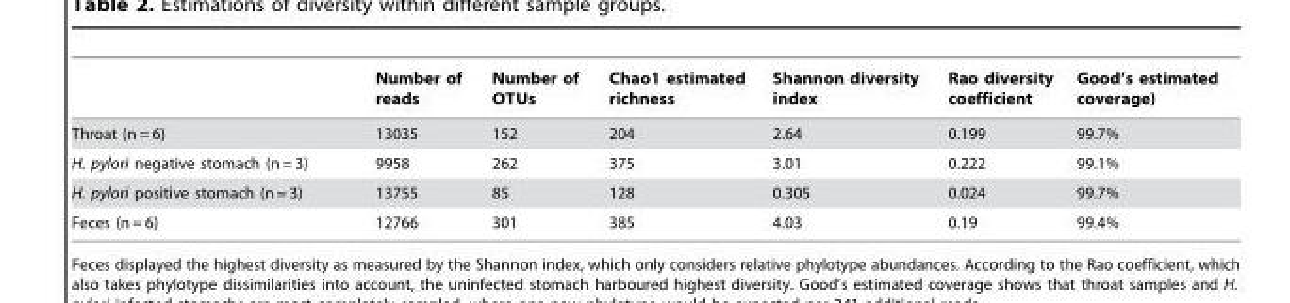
<table><thead><tr><td></td><td>Number of reads</td><td>Number of OTUs</td><td>Chao1 estimated richness</td><td>Shannon diversity index</td><td>Rao diversity coefficient</td><td>Good’s estimated coverage)</td></tr></thead><tbody><tr><td>Throat (n = 6)</td><td>13035</td><td>152</td><td>204</td><td>2.64</td><td>0.199</td><td>99.7%</td></tr><tr><td>H. pylori negative stomach (n = 3)</td><td>9958</td><td>262</td><td>375</td><td>3.01</td><td>0.222</td><td>99.1%</td></tr><tr><td>H. pylori positive stomach (n = 3)</td><td>13755</td><td>85</td><td>128</td><td>0.305</td><td>0.024</td><td>99.7%</td></tr><tr><td>Feces (n = 6)</td><td>12766</td><td>301</td><td>385</td><td>4.03</td><td>0.19</td><td>99.4%</td></tr></tbody></table>